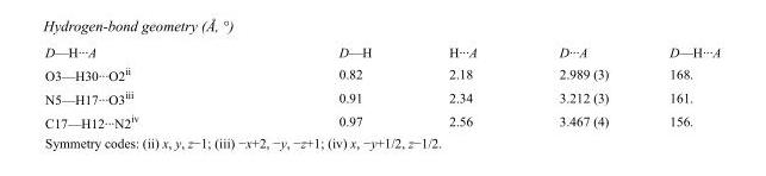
<table><tbody><tr><td>D—H···A</td><td>D—H</td><td>H···A</td><td>D···A</td><td>D—H···A</td></tr><tr><td>O3—H30···O2<sup>ii</sup></td><td>0.82</td><td>2.18</td><td>2.989 (3)</td><td>168.</td></tr><tr><td>N5—H17···O3<sup>iii</sup></td><td>0.91</td><td>2.34</td><td>3.212 (3)</td><td>161.</td></tr><tr><td>C17—H12···N2<sup>iv</sup></td><td>0.97</td><td>2.56</td><td>3.467 (4)</td><td>156.</td></tr></tbody></table>